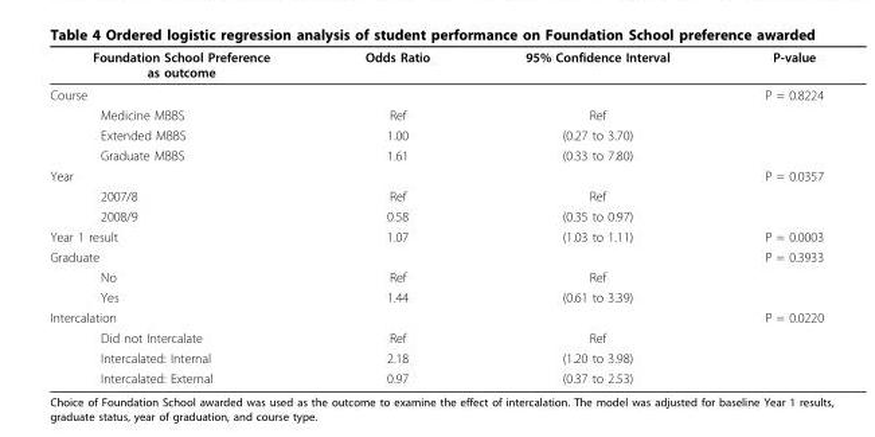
<table><thead><tr><td>Foundation School Preference as outcome</td><td>Odds Ratio</td><td>95% Confidence Interval</td><td>P-value</td></tr></thead><tbody><tr><td>Course</td><td></td><td></td><td>P = 0.8224</td></tr><tr><td>Medicine MBBS</td><td>Ref</td><td>Ref</td><td></td></tr><tr><td>Extended MBBS</td><td>1.00</td><td>(0.27 to 3.70)</td><td></td></tr><tr><td>Graduate MBBS</td><td>1.61</td><td>(0.33 to 7.80)</td><td></td></tr><tr><td>Year</td><td></td><td></td><td>P = 0.0357</td></tr><tr><td>2007/8</td><td>Ref</td><td>Ref</td><td></td></tr><tr><td>2008/9</td><td>0.58</td><td>(0.35 to 0.97)</td><td></td></tr><tr><td>Year 1 result</td><td>1.07</td><td>(1.03 to 1.11)</td><td>P = 0.0003</td></tr><tr><td>Graduate</td><td></td><td></td><td>P = 0.3933</td></tr><tr><td>No</td><td>Ref</td><td>Ref</td><td></td></tr><tr><td>Yes</td><td>1.44</td><td>(0.61 to 3.39)</td><td></td></tr><tr><td>Intercalation</td><td></td><td></td><td>P = 0.0220</td></tr><tr><td>Did not Intercalate</td><td>Ref</td><td>Ref</td><td></td></tr><tr><td>Intercalated: Internal</td><td>2.18</td><td>(1.20 to 3.98)</td><td></td></tr><tr><td>Intercalated: External</td><td>0.97</td><td>(0.37 to 2.53)</td><td></td></tr></tbody></table>